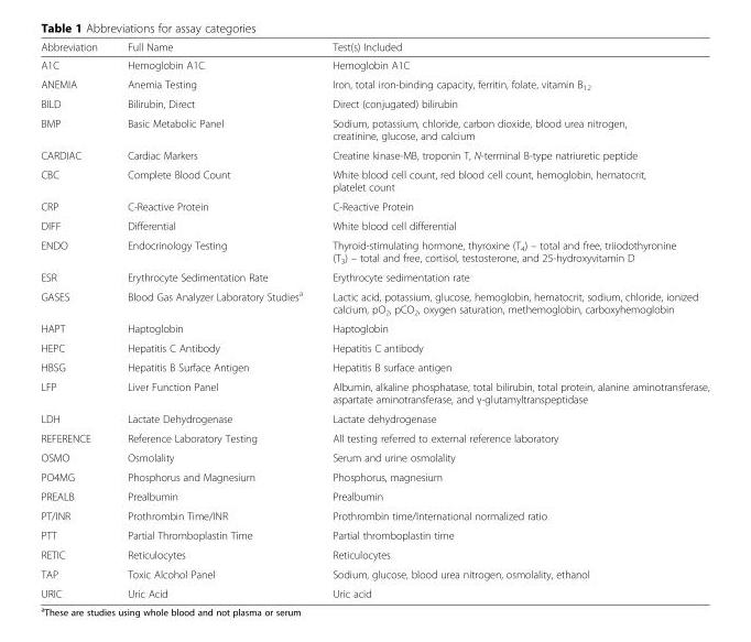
<table><thead><tr><td>Abbreviation</td><td>Full Name</td><td>Test(s) Included</td></tr></thead><tbody><tr><td>A1C</td><td>Hemoglobin A1C</td><td>Hemoglobin A1C</td></tr><tr><td>ANEMIA</td><td>Anemia Testing</td><td>Iron, total iron-binding capacity, ferritin, folate, vitamin B<sub>12</sub></td></tr><tr><td>BILD</td><td>Bilirubin, Direct</td><td>Direct (conjugated) bilirubin</td></tr><tr><td>BMP</td><td>Basic Metabolic Panel</td><td>Sodium, potassium, chloride, carbon dioxide, blood urea nitrogen, creatinine, glucose, and calcium</td></tr><tr><td>CARDIAC</td><td>Cardiac Markers</td><td>Creatine kinase-MB, troponin T, N-terminal B-type natriuretic peptide</td></tr><tr><td>CBC</td><td>Complete Blood Count</td><td>White blood cell count, red blood cell count, hemoglobin, hematocrit, platelet count</td></tr><tr><td>CRP</td><td>C-Reactive Protein</td><td>C-Reactive Protein</td></tr><tr><td>DIFF</td><td>Differential</td><td>White blood cell differential</td></tr><tr><td>ENDO</td><td>Endocrinology Testing</td><td>Thyroid-stimulating hormone, thyroxine (T<sub>4</sub>) – total and free, triiodothyronine (T<sub>3</sub>) – total and free, cortisol, testosterone, and 25-hydroxyvitamin D</td></tr><tr><td>ESR</td><td>Erythrocyte Sedimentation Rate</td><td>Erythrocyte sedimentation rate</td></tr><tr><td>GASES</td><td>Blood Gas Analyzer Laboratory Studies<sup>a</sup></td><td>Lactic acid, potassium, glucose, hemoglobin, hematocrit, sodium, chloride, ionized calcium, pO<sub>2</sub>, pCO<sub>2</sub>, oxygen saturation, methemoglobin, carboxyhemoglobin</td></tr><tr><td>HAPT</td><td>Haptoglobin</td><td>Haptoglobin</td></tr><tr><td>HEPC</td><td>Hepatitis C Antibody</td><td>Hepatitis C antibody</td></tr><tr><td>HBSG</td><td>Hepatitis B Surface Antigen</td><td>Hepatitis B surface antigen</td></tr><tr><td>LFP</td><td>Liver Function Panel</td><td>Albumin, alkaline phosphatase, total bilirubin, total protein, alanine aminotransferase, aspartate aminotransferase, and γ-glutamyltranspeptidase</td></tr><tr><td>LDH</td><td>Lactate Dehydrogenase</td><td>Lactate dehydrogenase</td></tr><tr><td>REFERENCE</td><td>Reference Laboratory Testing</td><td>All testing referred to external reference laboratory</td></tr><tr><td>OSMO</td><td>Osmolality</td><td>Serum and urine osmolality</td></tr><tr><td>PO4MG</td><td>Phosphorus and Magnesium</td><td>Phosphorus, magnesium</td></tr><tr><td>PREALB</td><td>Prealbumin</td><td>Prealbumin</td></tr><tr><td>PT/INR</td><td>Prothrombin Time/INR</td><td>Prothrombin time/International normalized ratio</td></tr><tr><td>PTT</td><td>Partial Thromboplastin Time</td><td>Partial thromboplastin time</td></tr><tr><td>RETIC</td><td>Reticulocytes</td><td>Reticulocytes</td></tr><tr><td>TAP</td><td>Toxic Alcohol Panel</td><td>Sodium, glucose, blood urea nitrogen, osmolality, ethanol</td></tr><tr><td>URIC</td><td>Uric Acid</td><td>Uric acid</td></tr></tbody></table>